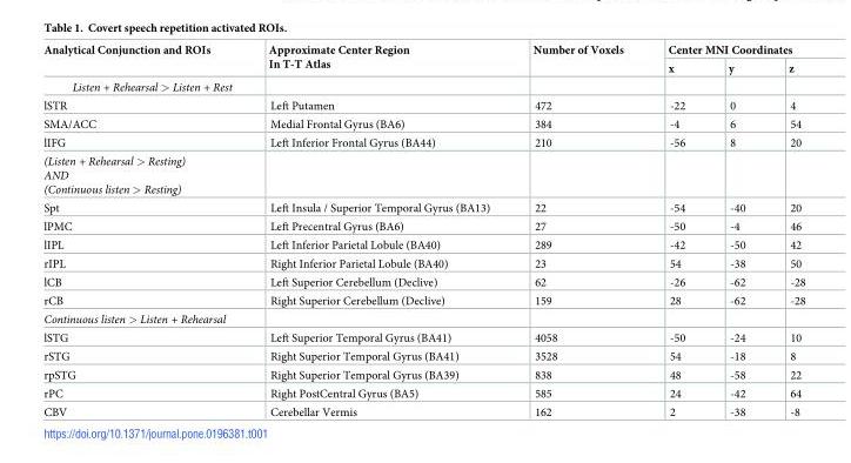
<table><thead><tr><td rowspan="2">Analytical Conjunction and ROIs</td><td rowspan="2">Approximate Center Region In T-T Atlas</td><td rowspan="2">Number of Voxels</td><td colspan="3">Center MNI Coordinates</td></tr><tr><td>x</td><td>y</td><td>z</td></tr></thead><tbody><tr><td colspan="6">Listen + Rehearsal &gt; Listen + Rest</td></tr><tr><td>lSTR</td><td>Left Putamen</td><td>472</td><td>-22</td><td>0</td><td>4</td></tr><tr><td>SMA/ACC</td><td>Medial Frontal Gyrus (BA6)</td><td>384</td><td>-4</td><td>6</td><td>54</td></tr><tr><td>lIFG</td><td>Left Inferior Frontal Gyrus (BA44)</td><td>210</td><td>-56</td><td>8</td><td>20</td></tr><tr><td colspan="6">(Listen + Rehearsal &gt; Resting) AND (Continuous listen &gt; Resting)</td></tr><tr><td>Spt</td><td>Left Insula / Superior Temporal Gyrus (BA13)</td><td>22</td><td>-54</td><td>-40</td><td>20</td></tr><tr><td>lPMC</td><td>Left Precentral Gyrus (BA6)</td><td>27</td><td>-50</td><td>-4</td><td>46</td></tr><tr><td>lIPL</td><td>Left Inferior Parietal Lobule (BA40)</td><td>289</td><td>-42</td><td>-50</td><td>42</td></tr><tr><td>rIPL</td><td>Right Inferior Parietal Lobule (BA40)</td><td>23</td><td>54</td><td>-38</td><td>50</td></tr><tr><td>lCB</td><td>Left Superior Cerebellum (Declive)</td><td>62</td><td>-26</td><td>-62</td><td>-28</td></tr><tr><td>rCB</td><td>Right Superior Cerebellum (Declive)</td><td>159</td><td>28</td><td>-62</td><td>-28</td></tr><tr><td colspan="6">Continuous listen &gt; Listen + Rehearsal</td></tr><tr><td>lSTG</td><td>Left Superior Temporal Gyrus (BA41)</td><td>4058</td><td>-50</td><td>-24</td><td>10</td></tr><tr><td>rSTG</td><td>Right Superior Temporal Gyrus (BA41)</td><td>3528</td><td>54</td><td>-18</td><td>8</td></tr><tr><td>rpSTG</td><td>Right Superior Temporal Gyrus (BA39)</td><td>838</td><td>48</td><td>-58</td><td>22</td></tr><tr><td>rPC</td><td>Right PostCentral Gyrus (BA5)</td><td>585</td><td>24</td><td>-42</td><td>64</td></tr><tr><td>CBV</td><td>Cerebellar Vermis</td><td>162</td><td>2</td><td>-38</td><td>-8</td></tr></tbody></table>